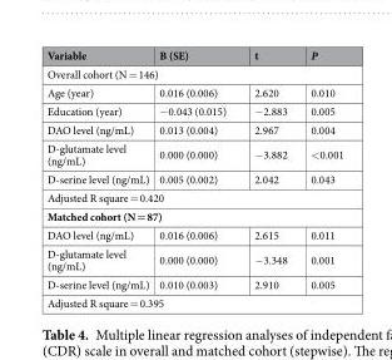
<table><thead><tr><td>Variable</td><td>B (SE)</td><td>t</td><td>P</td></tr></thead><tbody><tr><td colspan="4">Overall cohort (N = 146)</td></tr><tr><td>Age (year)</td><td>0.016 (0.006)</td><td>2.620</td><td>0.010</td></tr><tr><td>Education (year)</td><td>−0.043 (0.015)</td><td>−2.883</td><td>0.005</td></tr><tr><td>DAO level (ng/mL)</td><td>0.013 (0.004)</td><td>2.967</td><td>0.004</td></tr><tr><td>D-glutamate level (ng/mL)</td><td>0.000 (0.000)</td><td>−3.882</td><td>&lt;0.001</td></tr><tr><td>D-serine level (ng/mL)</td><td>0.005 (0.002)</td><td>2.042</td><td>0.043</td></tr><tr><td colspan="4">Adjusted R square = 0.420</td></tr><tr><td colspan="4">Matched cohort (N = 87)</td></tr><tr><td>DAO level (ng/mL)</td><td>0.016 (0.006)</td><td>2.615</td><td>0.011</td></tr><tr><td>D-glutamate level (ng/mL)</td><td>0.000 (0.000)</td><td>−3.348</td><td>0.001</td></tr><tr><td>D-serine level (ng/mL)</td><td>0.010 (0.003)</td><td>2.910</td><td>0.005</td></tr><tr><td colspan="4">Adjusted R square = 0.395</td></tr></tbody></table>